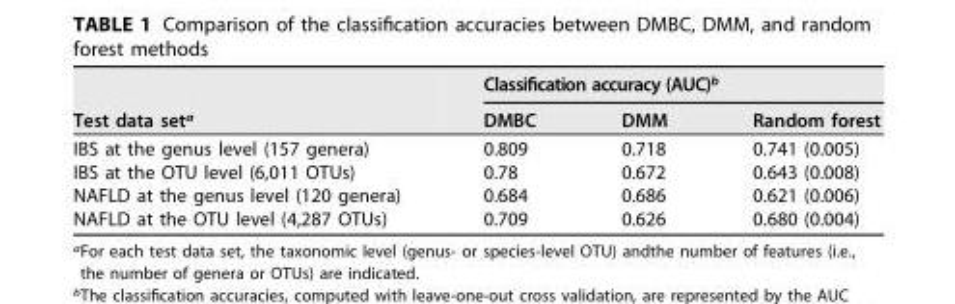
<table><thead><tr><td rowspan="2">Test data set<sup>a</sup></td><td colspan="3">Classification accuracy (AUC)<sup>b</sup></td></tr><tr><td>DMBC</td><td>DMM</td><td>Random forest</td></tr></thead><tbody><tr><td>IBS at the genus level (157 genera)</td><td>0.809</td><td>0.718</td><td>0.741 (0.005)</td></tr><tr><td>IBS at the OTU level (6,011 OTUs)</td><td>0.78</td><td>0.672</td><td>0.643 (0.008)</td></tr><tr><td>NAFLD at the genus level (120 genera)</td><td>0.684</td><td>0.686</td><td>0.621 (0.006)</td></tr><tr><td>NAFLD at the OTU level (4,287 OTUs)</td><td>0.709</td><td>0.626</td><td>0.680 (0.004)</td></tr></tbody></table>